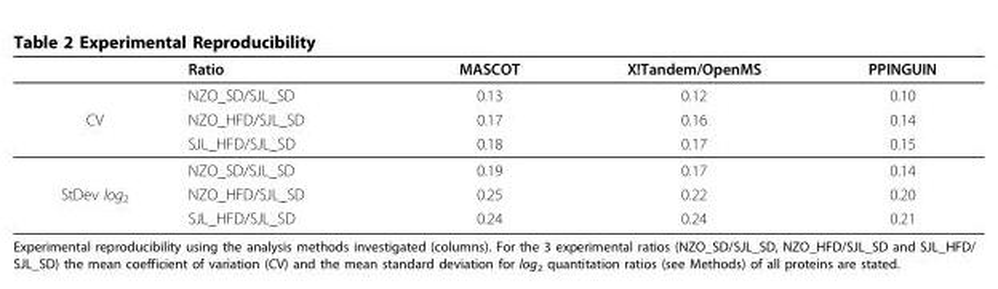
<table><thead><tr><td></td><td>Ratio</td><td>MASCOT</td><td>X!Tandem/OpenMS</td><td>PPINGUIN</td></tr></thead><tbody><tr><td></td><td>NZO_SD/SJL_SD</td><td>0.13</td><td>0.12</td><td>0.10</td></tr><tr><td rowspan="3">CV</td><td>NZO_HFD/SJL_SD</td><td>0.17</td><td>0.16</td><td>0.14</td></tr><tr><td>SJL_HFD/SJL_SD</td><td>0.18</td><td>0.17</td><td>0.15</td></tr><tr><td>NZO_SD/SJL_SD</td><td>0.19</td><td>0.17</td><td>0.14</td></tr><tr><td rowspan="2">StDev log<sub>2</sub></td><td>NZO_HFD/SJL_SD</td><td>0.25</td><td>0.22</td><td>0.20</td></tr><tr><td>SJL_HFD/SJL_SD</td><td>0.24</td><td>0.24</td><td>0.21</td></tr></tbody></table>